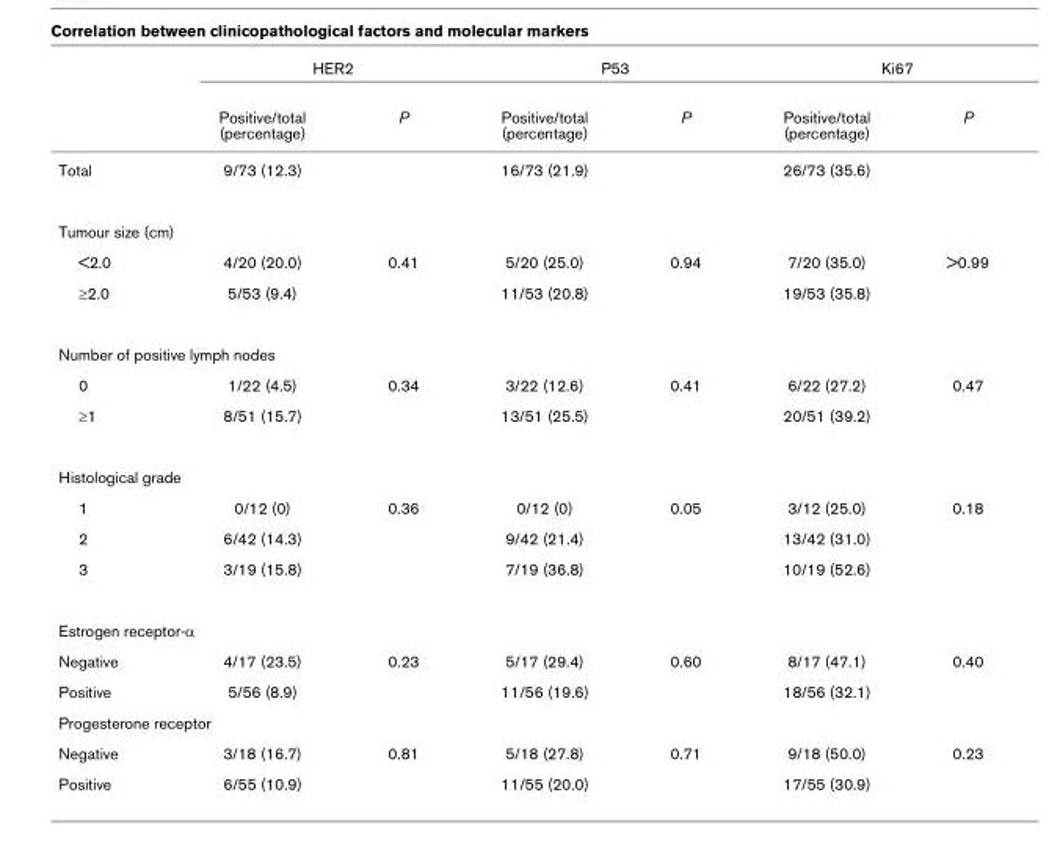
<table><thead><tr><td rowspan="2"></td><td colspan="2">HER2</td><td colspan="2">P53</td><td colspan="2">Ki67</td></tr><tr><td>Positive/total (percentage)</td><td>P</td><td>Positive/total (percentage)</td><td>P</td><td>Positive/total (percentage)</td><td>P</td></tr></thead><tbody><tr><td>Total</td><td>9/73 (12.3)</td><td></td><td>16/73 (21.9)</td><td></td><td>26/73 (35.6)</td><td></td></tr><tr><td colspan="7">Tumour size (cm)</td></tr><tr><td>&lt;2.0</td><td>4/20 (20.0)</td><td>0.41</td><td>5/20 (25.0)</td><td>0.94</td><td>7/20 (35.0)</td><td>&gt;0.99</td></tr><tr><td>≥2.0</td><td>5/53 (9.4)</td><td></td><td>11/53 (20.8)</td><td></td><td>19/53 (35.8)</td><td></td></tr><tr><td colspan="7">Number of positive lymph nodes</td></tr><tr><td>0</td><td>1/22 (4.5)</td><td>0.34</td><td>3/22 (12.6)</td><td>0.41</td><td>6/22 (27.2)</td><td>0.47</td></tr><tr><td>≥1</td><td>8/51 (15.7)</td><td></td><td>13/51 (25.5)</td><td></td><td>20/51 (39.2)</td><td></td></tr><tr><td colspan="7">Histological grade</td></tr><tr><td>1</td><td>0/12 (0)</td><td>0.36</td><td>0/12 (0)</td><td>0.05</td><td>3/12 (25.0)</td><td>0.18</td></tr><tr><td>2</td><td>6/42 (14.3)</td><td></td><td>9/42 (21.4)</td><td></td><td>13/42 (31.0)</td><td></td></tr><tr><td>3</td><td>3/19 (15.8)</td><td></td><td>7/19 (36.8)</td><td></td><td>10/19 (52.6)</td><td></td></tr><tr><td colspan="7">Estrogen receptor-α</td></tr><tr><td>Negative</td><td>4/17 (23.5)</td><td>0.23</td><td>5/17 (29.4)</td><td>0.60</td><td>8/17 (47.1)</td><td>0.40</td></tr><tr><td>Positive</td><td>5/56 (8.9)</td><td></td><td>11/56 (19.6)</td><td></td><td>18/56 (32.1)</td><td></td></tr><tr><td colspan="7">Progesterone receptor</td></tr><tr><td>Negative</td><td>3/18 (16.7)</td><td>0.81</td><td>5/18 (27.8)</td><td>0.71</td><td>9/18 (50.0)</td><td>0.23</td></tr><tr><td>Positive</td><td>6/55 (10.9)</td><td></td><td>11/55 (20.0)</td><td></td><td>17/55 (30.9)</td><td></td></tr></tbody></table>